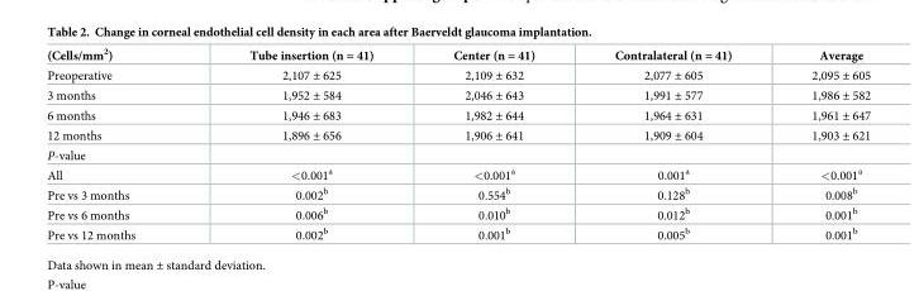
<table><thead><tr><td>(Cells/mm<sup>2</sup>)</td><td>Tube insertion (n = 41)</td><td>Center (n = 41)</td><td>Contralateral (n = 41)</td><td>Average</td></tr></thead><tbody><tr><td>Preoperative</td><td>2,107 ± 625</td><td>2,109 ± 632</td><td>2,077 ± 605</td><td>2,095 ± 605</td></tr><tr><td>3 months</td><td>1,952 ± 584</td><td>2,046 ± 643</td><td>1,991 ± 577</td><td>1,986 ± 582</td></tr><tr><td>6 months</td><td>1,946 ± 683</td><td>1,982 ± 644</td><td>1,964 ± 631</td><td>1,961 ± 647</td></tr><tr><td>12 months</td><td>1,896 ± 656</td><td>1,906 ± 641</td><td>1,909 ± 604</td><td>1,903 ± 621</td></tr><tr><td colspan="5">P-value</td></tr><tr><td>All</td><td>&lt;0.001<sup>a</sup></td><td>&lt;0.001<sup>a</sup></td><td>0.001<sup>a</sup></td><td>&lt;0.001<sup>a</sup></td></tr><tr><td>Pre vs 3 months</td><td>0.002<sup>b</sup></td><td>0.554<sup>b</sup></td><td>0.128<sup>b</sup></td><td>0.008<sup>b</sup></td></tr><tr><td>Pre vs 6 months</td><td>0.006<sup>b</sup></td><td>0.010<sup>b</sup></td><td>0.012<sup>b</sup></td><td>0.001<sup>b</sup></td></tr><tr><td>Pre vs 12 months</td><td>0.002<sup>b</sup></td><td>0.001<sup>b</sup></td><td>0.005<sup>b</sup></td><td>0.001<sup>b</sup></td></tr></tbody></table>